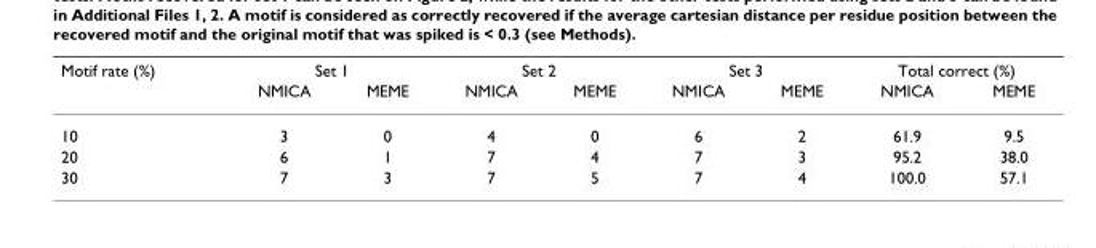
<table><thead><tr><td rowspan="2">Motif rate (%)</td><td colspan="2">Set 1</td><td colspan="2">Set 2</td><td colspan="2">Set 3</td><td colspan="2">Total correct (%)</td></tr><tr><td>NMICA</td><td>MEME</td><td>NMICA</td><td>MEME</td><td>NMICA</td><td>MEME</td><td>NMICA</td><td>MEME</td></tr></thead><tbody><tr><td>10</td><td>3</td><td>0</td><td>4</td><td>0</td><td>6</td><td>2</td><td>61.9</td><td>9.5</td></tr><tr><td>20</td><td>6</td><td>1</td><td>7</td><td>4</td><td>7</td><td>3</td><td>95.2</td><td>38.0</td></tr><tr><td>30</td><td>7</td><td>3</td><td>7</td><td>5</td><td>7</td><td>4</td><td>100.0</td><td>57.1</td></tr></tbody></table>